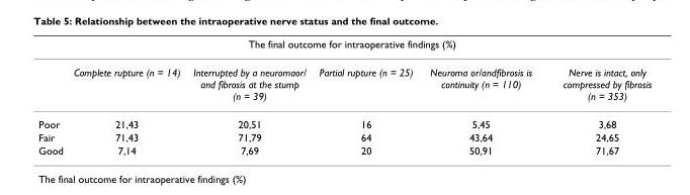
<table><thead><tr><td colspan="6">The final outcome for intraoperative findings (%)</td></tr><tr><td></td><td>Complete rupture (n = 14)</td><td>Interrupted by a neuromaor/ and fibrosis at the stump (n = 39)</td><td>Partial rupture (n = 25)</td><td>Neuroma or/andfibrosis is continuity (n = 110)</td><td>Nerve is intact, only compressed by fibrosis (n = 353)</td></tr></thead><tbody><tr><td>Poor</td><td>21,43</td><td>20,51</td><td>16</td><td>5,45</td><td>3,68</td></tr><tr><td>Fair</td><td>71,43</td><td>71,79</td><td>64</td><td>43,64</td><td>24,65</td></tr><tr><td>Good</td><td>7,14</td><td>7,69</td><td>20</td><td>50,91</td><td>71,67</td></tr></tbody></table>